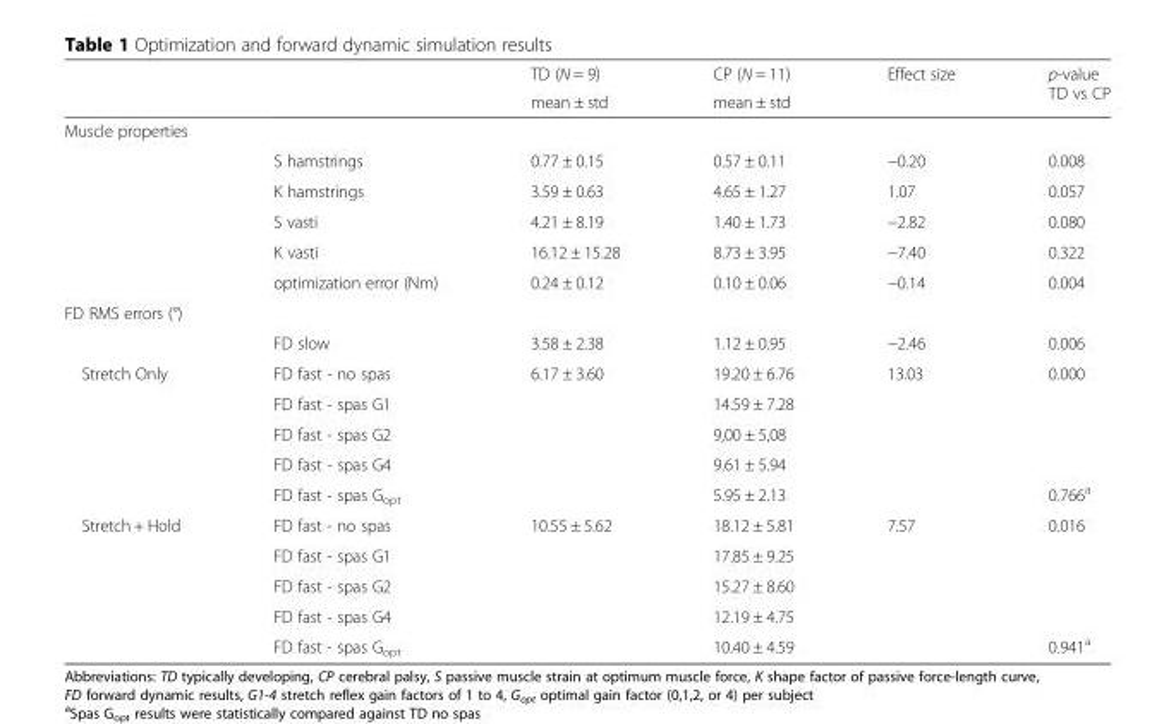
<table><thead><tr><td rowspan="2"></td><td rowspan="2"></td><td rowspan="2">TD (N = 9) mean ± std</td><td rowspan="2">CP (N = 11) mean ± std</td><td rowspan="2">Effect size</td><td rowspan="2">p-value TD vs CP</td></tr><tr></tr></thead><tbody><tr><td colspan="6">Muscle properties</td></tr><tr><td></td><td>S hamstrings</td><td>0.77 ± 0.15</td><td>0.57 ± 0.11</td><td>−0.20</td><td>0.008</td></tr><tr><td></td><td>K hamstrings</td><td>3.59 ± 0.63</td><td>4.65 ± 1.27</td><td>1.07</td><td>0.057</td></tr><tr><td></td><td>S vasti</td><td>4.21 ± 8.19</td><td>1.40 ± 1.73</td><td>−2.82</td><td>0.080</td></tr><tr><td></td><td>K vasti</td><td>16.12 ± 15.28</td><td>8.73 ± 3.95</td><td>−7.40</td><td>0.322</td></tr><tr><td></td><td>optimization error (Nm)</td><td>0.24 ± 0.12</td><td>0.10 ± 0.06</td><td>−0.14</td><td>0.004</td></tr><tr><td colspan="6">FD RMS errors (°)</td></tr><tr><td></td><td>FD slow</td><td>3.58 ± 2.38</td><td>1.12 ± 0.95</td><td>−2.46</td><td>0.006</td></tr><tr><td rowspan="5">Stretch Only</td><td>FD fast - no spas</td><td>6.17 ± 3.60</td><td>19.20 ± 6.76</td><td>13.03</td><td>0.000</td></tr><tr><td>FD fast - spas G1</td><td></td><td>14.59 ± 7.28</td><td></td><td></td></tr><tr><td>FD fast - spas G2</td><td></td><td>9,00 ± 5,08</td><td></td><td></td></tr><tr><td>FD fast - spas G4</td><td></td><td>9.61 ± 5.94</td><td></td><td></td></tr><tr><td>FD fast - spas G<sub>opt</sub></td><td></td><td>5.95 ± 2.13</td><td></td><td>0.766<sup>a</sup></td></tr><tr><td rowspan="5">Stretch + Hold</td><td>FD fast - no spas</td><td>10.55 ± 5.62</td><td>18.12 ± 5.81</td><td>7.57</td><td>0.016</td></tr><tr><td>FD fast - spas G1</td><td></td><td>17.85 ± 9.25</td><td></td><td></td></tr><tr><td>FD fast - spas G2</td><td></td><td>15.27 ± 8.60</td><td></td><td></td></tr><tr><td>FD fast - spas G4</td><td></td><td>12.19 ± 4.75</td><td colspan="2"></td></tr><tr><td>FD fast - spas G<sub>opt</sub></td><td></td><td>10.40 ± 4.59</td><td></td><td>0.941<sup>a</sup></td></tr></tbody></table>